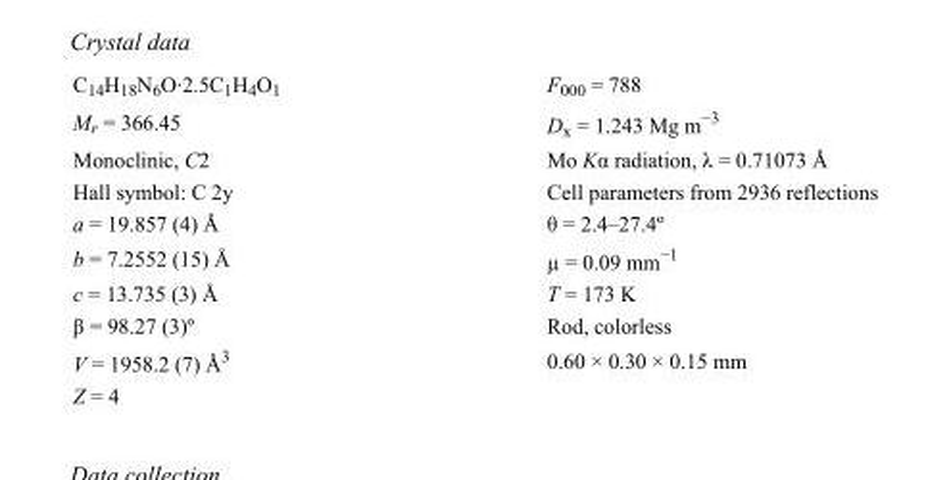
<table><tbody><tr><td>C14H18N6O·2.5C1H4O1</td><td>F000 = 788</td></tr><tr><td>M<sub>r</sub> = 366.45</td><td>D<sub>x</sub> = 1.243 Mg m<sup>−3</sup></td></tr><tr><td>Monoclinic, C2</td><td>Mo Kα radiation, λ = 0.71073 Å</td></tr><tr><td>Hall symbol: C 2y</td><td>Cell parameters from 2936 reflections</td></tr><tr><td>a = 19.857 (4) Å</td><td>θ = 2.4–27.4º</td></tr><tr><td>b = 7.2552 (15) Å</td><td>µ = 0.09 mm<sup>−1</sup></td></tr><tr><td>c = 13.735 (3) Å</td><td>T = 173 K</td></tr><tr><td>β = 98.27 (3)º</td><td>Rod, colorless</td></tr><tr><td>V = 1958.2 (7) Å<sup>3</sup></td><td>0.60 × 0.30 × 0.15 mm</td></tr><tr><td>Z = 4</td><td></td></tr></tbody></table>